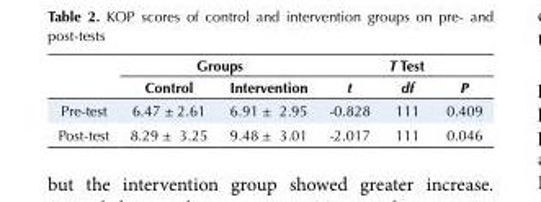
<table><thead><tr><td rowspan="2"></td><td colspan="2">Groups</td><td colspan="3">T Test</td></tr><tr><td>Control</td><td>Intervention</td><td>t</td><td>df</td><td>P</td></tr></thead><tbody><tr><td>Pre-test</td><td>6.47 ± 2.61</td><td>6.91 ± 2.95</td><td>-0.828</td><td>111</td><td>0.409</td></tr><tr><td>Post-test</td><td>8.29 ± 3.25</td><td>9.48 ± 3.01</td><td>-2.017</td><td>111</td><td>0.046</td></tr></tbody></table>